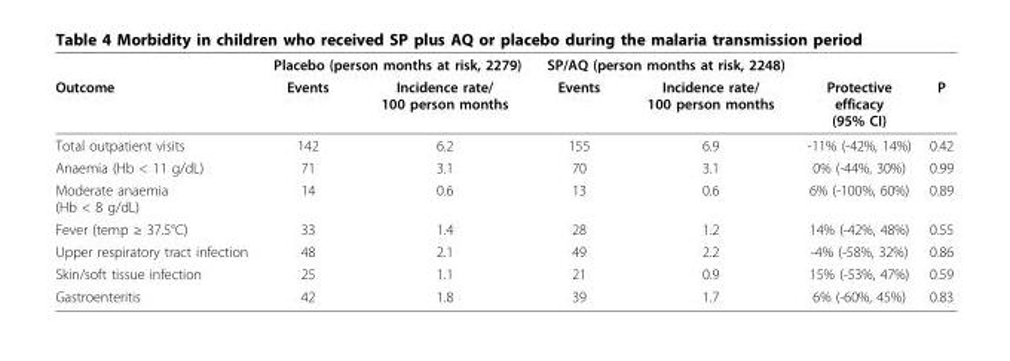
<table><thead><tr><td rowspan="2">Outcome</td><td colspan="2">Placebo (person months at risk, 2279)</td><td colspan="2">SP/AQ (person months at risk, 2248)</td><td rowspan="2">Protective efficacy (95% CI)</td><td rowspan="2">P</td></tr><tr><td>Events</td><td>Incidence rate/ 100 person months</td><td>Events</td><td>Incidence rate/ 100 person months</td></tr></thead><tbody><tr><td>Total outpatient visits</td><td>142</td><td>6.2</td><td>155</td><td>6.9</td><td>-11% (-42%, 14%)</td><td>0.42</td></tr><tr><td>Anaemia (Hb &lt; 11 g/dL)</td><td>71</td><td>3.1</td><td>70</td><td>3.1</td><td>0% (-44%, 30%)</td><td>0.99</td></tr><tr><td>Moderate anaemia (Hb &lt; 8 g/dL)</td><td>14</td><td>0.6</td><td>13</td><td>0.6</td><td>6% (-100%, 60%)</td><td>0.89</td></tr><tr><td>Fever (temp ≥ 37.5°C)</td><td>33</td><td>1.4</td><td>28</td><td>1.2</td><td>14% (-42%, 48%)</td><td>0.55</td></tr><tr><td>Upper respiratory tract infection</td><td>48</td><td>2.1</td><td>49</td><td>2.2</td><td>-4% (-58%, 32%)</td><td>0.86</td></tr><tr><td>Skin/soft tissue infection</td><td>25</td><td>1.1</td><td>21</td><td>0.9</td><td>15% (-53%, 47%)</td><td>0.59</td></tr><tr><td>Gastroenteritis</td><td>42</td><td>1.8</td><td>39</td><td>1.7</td><td>6% (-60%, 45%)</td><td>0.83</td></tr></tbody></table>